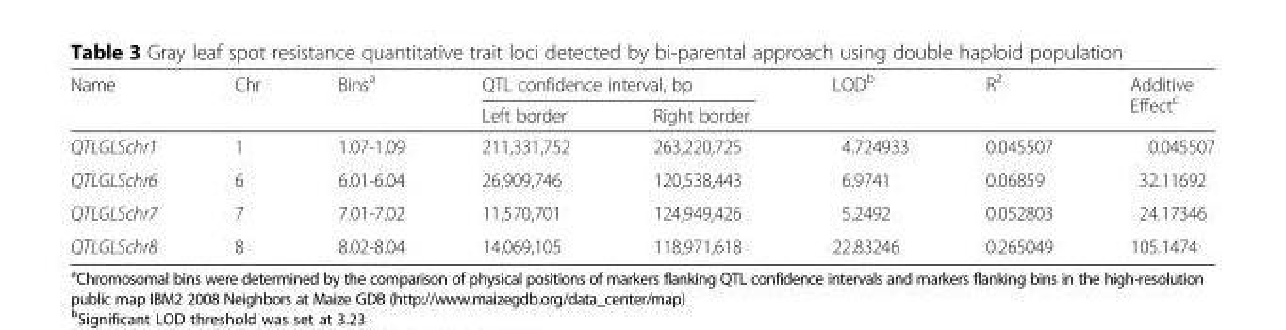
<table><thead><tr><td rowspan="2">Name</td><td rowspan="2">Chr</td><td rowspan="2">Bins<sup>a</sup></td><td colspan="2">QTL confidence interval, bp</td><td rowspan="2">LOD<sup>b</sup></td><td rowspan="2">R<sup>2</sup></td><td rowspan="2">Additive Effect<sup>c</sup></td></tr><tr><td>Left border</td><td>Right border</td></tr></thead><tbody><tr><td>QTLGLSchr1</td><td>1</td><td>1.07-1.09</td><td>211,331,752</td><td>263,220,725</td><td>4.724933</td><td>0.045507</td><td>0.045507</td></tr><tr><td>QTLGLSchr6</td><td>6</td><td>6.01-6.04</td><td>26,909,746</td><td>120,538,443</td><td>6.9741</td><td>0.06859</td><td>32.11692</td></tr><tr><td>QTLGLSchr7</td><td>7</td><td>7.01-7.02</td><td>11,570,701</td><td>124,949,426</td><td>5.2492</td><td>0.052803</td><td>24.17346</td></tr><tr><td>QTLGLSchr8</td><td>8</td><td>8.02-8.04</td><td>14,069,105</td><td>118,971,618</td><td>22.83246</td><td>0.265049</td><td>105.1474</td></tr></tbody></table>